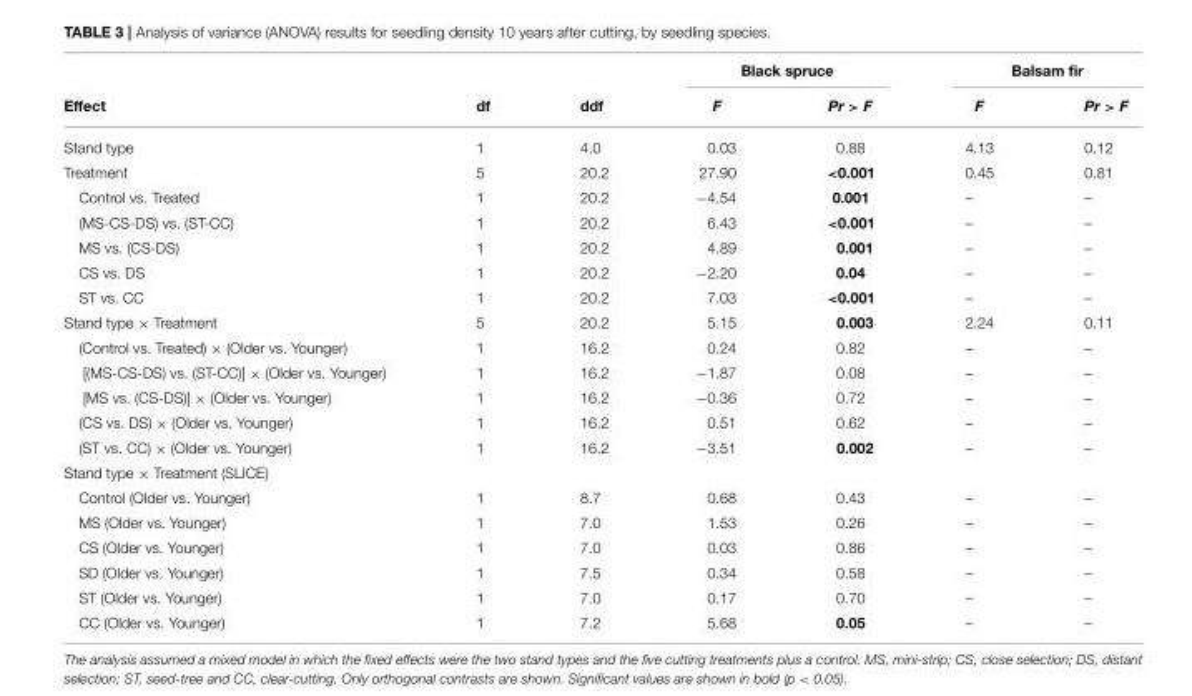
<table><thead><tr><td rowspan="2">Effect</td><td rowspan="2">df</td><td rowspan="2">ddf</td><td colspan="2">Black spruce</td><td colspan="2">Balsam fir</td></tr><tr><td>F</td><td>Pr &gt; F</td><td>F</td><td>Pr &gt; F</td></tr></thead><tbody><tr><td>Stand type</td><td>1</td><td>4.0</td><td>0.03</td><td>0.88</td><td>4.13</td><td>0.12</td></tr><tr><td>Treatment</td><td>5</td><td>20.2</td><td>27.90</td><td>&lt;0.001</td><td>0.45</td><td>0.81</td></tr><tr><td>Control vs. Treated</td><td>1</td><td>20.2</td><td>−4.54</td><td>0.001</td><td>–</td><td>–</td></tr><tr><td>(MS-CS-DS) vs. (ST-CC)</td><td>1</td><td>20.2</td><td>6.43</td><td>&lt;0.001</td><td>–</td><td>–</td></tr><tr><td>MS vs. (CS-DS)</td><td>1</td><td>20.2</td><td>4.89</td><td>0.001</td><td>–</td><td>–</td></tr><tr><td>CS vs. DS</td><td>1</td><td>20.2</td><td>−2.20</td><td>0.04</td><td>–</td><td>–</td></tr><tr><td>ST vs. CC</td><td>1</td><td>20.2</td><td>7.03</td><td>&lt;0.001</td><td>–</td><td>–</td></tr><tr><td>Stand type × Treatment</td><td>5</td><td>20.2</td><td>5.15</td><td>0.003</td><td>2.24</td><td>0.11</td></tr><tr><td>(Control vs. Treated) × (Older vs. Younger)</td><td>1</td><td>16.2</td><td>0.24</td><td>0.82</td><td>–</td><td>–</td></tr><tr><td>[(MS-CS-DS) vs. (ST-CC)] × (Older vs. Younger)</td><td>1</td><td>16.2</td><td>−1.87</td><td>0.08</td><td>–</td><td>–</td></tr><tr><td>[MS vs. (CS-DS)] × (Older vs. Younger)</td><td>1</td><td>16.2</td><td>−0.36</td><td>0.72</td><td>–</td><td>–</td></tr><tr><td>(CS vs. DS) × (Older vs. Younger)</td><td>1</td><td>16.2</td><td>0.51</td><td>0.62</td><td>–</td><td>–</td></tr><tr><td>(ST vs. CC) × (Older vs. Younger)</td><td>1</td><td>16.2</td><td>−3.51</td><td>0.002</td><td>–</td><td>–</td></tr><tr><td colspan="7">Stand type × Treatment (SLICE)</td></tr><tr><td>Control (Older vs. Younger)</td><td>1</td><td>8.7</td><td>0.68</td><td>0.43</td><td>–</td><td>–</td></tr><tr><td>MS (Older vs. Younger)</td><td>1</td><td>7.0</td><td>1.53</td><td>0.26</td><td>–</td><td>–</td></tr><tr><td>CS (Older vs. Younger)</td><td>1</td><td>7.0</td><td>0.03</td><td>0.86</td><td>–</td><td>–</td></tr><tr><td>SD (Older vs. Younger)</td><td>1</td><td>7.5</td><td>0.34</td><td>0.58</td><td>–</td><td>–</td></tr><tr><td>ST (Older vs. Younger)</td><td>1</td><td>7.0</td><td>0.17</td><td>0.70</td><td>–</td><td>–</td></tr><tr><td>CC (Older vs. Younger)</td><td>1</td><td>7.2</td><td>5.68</td><td>0.05</td><td>–</td><td>–</td></tr></tbody></table>